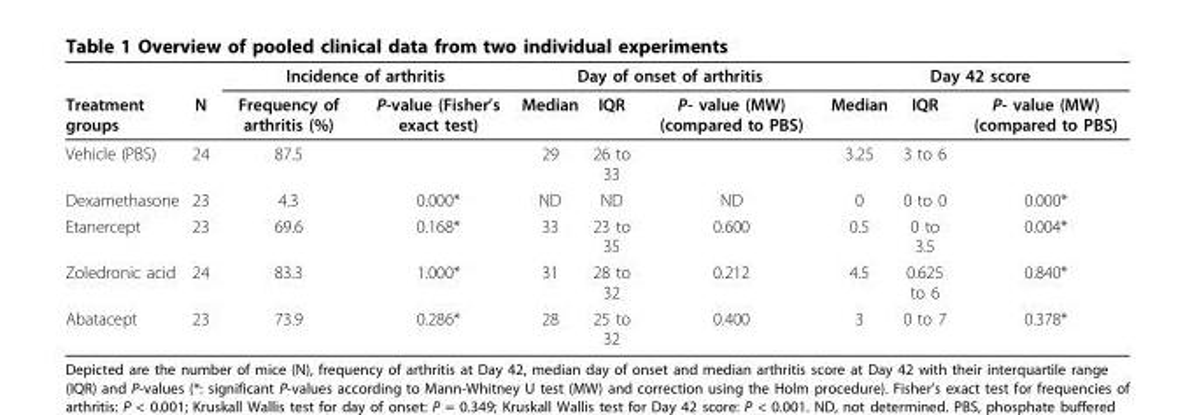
<table><thead><tr><td rowspan="2">Treatment groups</td><td rowspan="2">N</td><td colspan="2">Incidence of arthritis</td><td colspan="3">Day of onset of arthritis</td><td colspan="3">Day 42 score</td></tr><tr><td>Frequency of arthritis (%)</td><td>P-value (Fisher’s exact test)</td><td>Median</td><td>IQR</td><td>P- value (MW) (compared to PBS)</td><td>Median</td><td>IQR</td><td>P- value (MW) (compared to PBS)</td></tr></thead><tbody><tr><td>Vehicle (PBS)</td><td>24</td><td>87.5</td><td></td><td>29</td><td>26 to 33</td><td></td><td>3.25</td><td>3 to 6</td><td></td></tr><tr><td>Dexamethasone</td><td>23</td><td>4.3</td><td>0.000*</td><td>ND</td><td>ND</td><td>ND</td><td>0</td><td>0 to 0</td><td>0.000*</td></tr><tr><td>Etanercept</td><td>23</td><td>69.6</td><td>0.168*</td><td>33</td><td>23 to 35</td><td>0.600</td><td>0.5</td><td>0 to 3.5</td><td>0.004*</td></tr><tr><td>Zoledronic acid</td><td>24</td><td>83.3</td><td>1.000*</td><td>31</td><td>28 to 32</td><td>0.212</td><td>4.5</td><td>0.625 to 6</td><td>0.840*</td></tr><tr><td>Abatacept</td><td>23</td><td>73.9</td><td>0.286*</td><td>28</td><td>25 to 32</td><td>0.400</td><td>3</td><td>0 to 7</td><td>0.378*</td></tr></tbody></table>